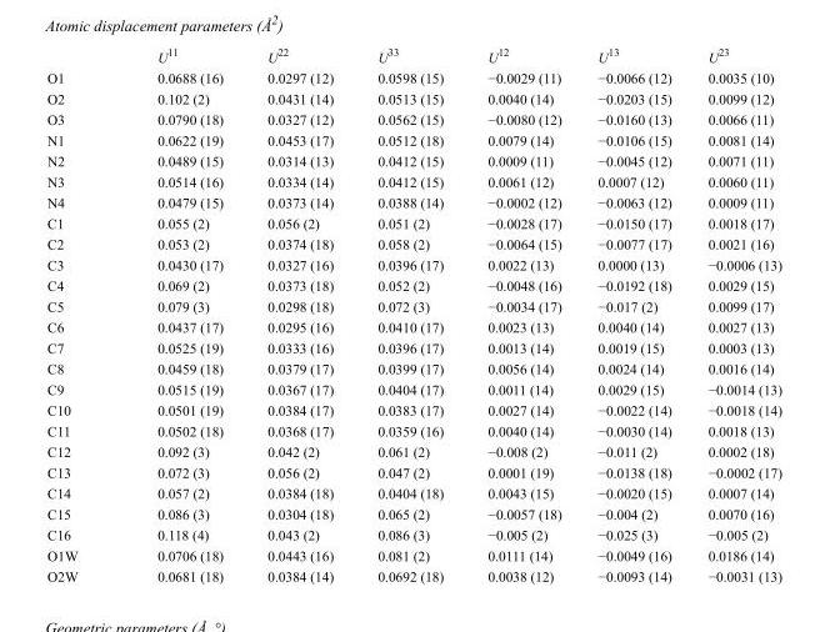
<table><thead><tr><td></td><td>U<sup>11</sup></td><td>U<sup>22</sup></td><td>U<sup>33</sup></td><td>U<sup>12</sup></td><td>U<sup>13</sup></td><td>U<sup>23</sup></td></tr></thead><tbody><tr><td>O1</td><td>0.0688 (16)</td><td>0.0297 (12)</td><td>0.0598 (15)</td><td>−0.0029 (11)</td><td>−0.0066 (12)</td><td>0.0035 (10)</td></tr><tr><td>O2</td><td>0.102 (2)</td><td>0.0431 (14)</td><td>0.0513 (15)</td><td>0.0040 (14)</td><td>−0.0203 (15)</td><td>0.0099 (12)</td></tr><tr><td>O3</td><td>0.0790 (18)</td><td>0.0327 (12)</td><td>0.0562 (15)</td><td>−0.0080 (12)</td><td>−0.0160 (13)</td><td>0.0066 (11)</td></tr><tr><td>N1</td><td>0.0622 (19)</td><td>0.0453 (17)</td><td>0.0512 (18)</td><td>0.0079 (14)</td><td>−0.0106 (15)</td><td>0.0081 (14)</td></tr><tr><td>N2</td><td>0.0489 (15)</td><td>0.0314 (13)</td><td>0.0412 (15)</td><td>0.0009 (11)</td><td>−0.0045 (12)</td><td>0.0071 (11)</td></tr><tr><td>N3</td><td>0.0514 (16)</td><td>0.0334 (14)</td><td>0.0412 (15)</td><td>0.0061 (12)</td><td>0.0007 (12)</td><td>0.0060 (11)</td></tr><tr><td>N4</td><td>0.0479 (15)</td><td>0.0373 (14)</td><td>0.0388 (14)</td><td>−0.0002 (12)</td><td>−0.0063 (12)</td><td>0.0009 (11)</td></tr><tr><td>C1</td><td>0.055 (2)</td><td>0.056 (2)</td><td>0.051 (2)</td><td>−0.0028 (17)</td><td>−0.0150 (17)</td><td>0.0018 (17)</td></tr><tr><td>C2</td><td>0.053 (2)</td><td>0.0374 (18)</td><td>0.058 (2)</td><td>−0.0064 (15)</td><td>−0.0077 (17)</td><td>0.0021 (16)</td></tr><tr><td>C3</td><td>0.0430 (17)</td><td>0.0327 (16)</td><td>0.0396 (17)</td><td>0.0022 (13)</td><td>0.0000 (13)</td><td>−0.0006 (13)</td></tr><tr><td>C4</td><td>0.069 (2)</td><td>0.0373 (18)</td><td>0.052 (2)</td><td>−0.0048 (16)</td><td>−0.0192 (18)</td><td>0.0029 (15)</td></tr><tr><td>C5</td><td>0.079 (3)</td><td>0.0298 (18)</td><td>0.072 (3)</td><td>−0.0034 (17)</td><td>−0.017 (2)</td><td>0.0099 (17)</td></tr><tr><td>C6</td><td>0.0437 (17)</td><td>0.0295 (16)</td><td>0.0410 (17)</td><td>0.0023 (13)</td><td>0.0040 (14)</td><td>0.0027 (13)</td></tr><tr><td>C7</td><td>0.0525 (19)</td><td>0.0333 (16)</td><td>0.0396 (17)</td><td>0.0013 (14)</td><td>0.0019 (15)</td><td>0.0003 (13)</td></tr><tr><td>C8</td><td>0.0459 (18)</td><td>0.0379 (17)</td><td>0.0399 (17)</td><td>0.0056 (14)</td><td>0.0024 (14)</td><td>0.0016 (14)</td></tr><tr><td>C9</td><td>0.0515 (19)</td><td>0.0367 (17)</td><td>0.0404 (17)</td><td>0.0011 (14)</td><td>0.0029 (15)</td><td>−0.0014 (13)</td></tr><tr><td>C10</td><td>0.0501 (19)</td><td>0.0384 (17)</td><td>0.0383 (17)</td><td>0.0027 (14)</td><td>−0.0022 (14)</td><td>−0.0018 (14)</td></tr><tr><td>C11</td><td>0.0502 (18)</td><td>0.0368 (17)</td><td>0.0359 (16)</td><td>0.0040 (14)</td><td>−0.0030 (14)</td><td>0.0018 (13)</td></tr><tr><td>C12</td><td>0.092 (3)</td><td>0.042 (2)</td><td>0.061 (2)</td><td>−0.008 (2)</td><td>−0.011 (2)</td><td>0.0002 (18)</td></tr><tr><td>C13</td><td>0.072 (3)</td><td>0.056 (2)</td><td>0.047 (2)</td><td>0.0001 (19)</td><td>−0.0138 (18)</td><td>−0.0002 (17)</td></tr><tr><td>C14</td><td>0.057 (2)</td><td>0.0384 (18)</td><td>0.0404 (18)</td><td>0.0043 (15)</td><td>−0.0020 (15)</td><td>0.0007 (14)</td></tr><tr><td>C15</td><td>0.086 (3)</td><td>0.0304 (18)</td><td>0.065 (2)</td><td>−0.0057 (18)</td><td>−0.004 (2)</td><td>0.0070 (16)</td></tr><tr><td>C16</td><td>0.118 (4)</td><td>0.043 (2)</td><td>0.086 (3)</td><td>−0.005 (2)</td><td>−0.025 (3)</td><td>−0.005 (2)</td></tr><tr><td>O1W</td><td>0.0706 (18)</td><td>0.0443 (16)</td><td>0.081 (2)</td><td>0.0111 (14)</td><td>−0.0049 (16)</td><td>0.0186 (14)</td></tr><tr><td>O2W</td><td>0.0681 (18)</td><td>0.0384 (14)</td><td>0.0692 (18)</td><td>0.0038 (12)</td><td>−0.0093 (14)</td><td>−0.0031 (13)</td></tr></tbody></table>